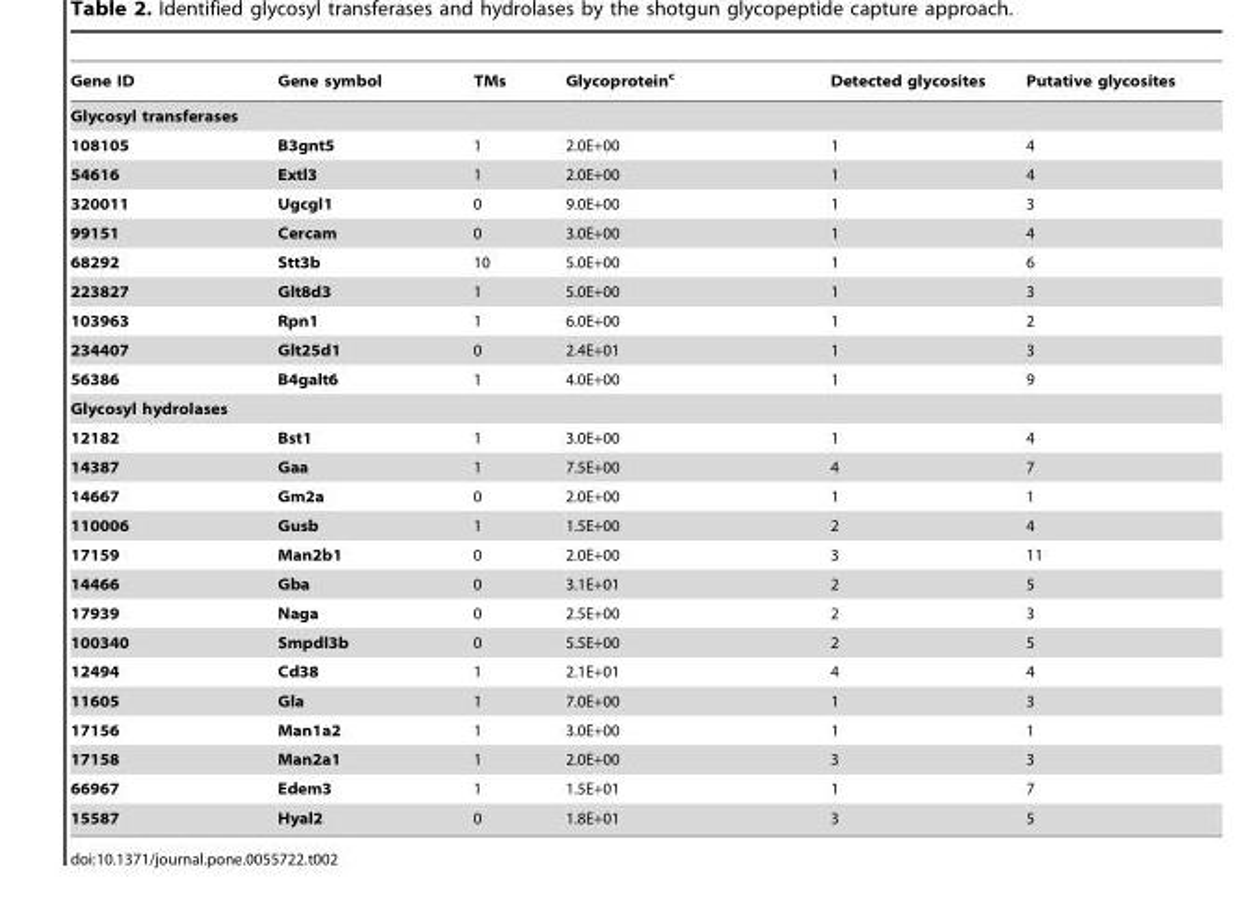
<table><thead><tr><td>Gene ID</td><td>Gene symbol</td><td>TMs</td><td>Glycoprotein<sup>c</sup></td><td>Detected glycosites</td><td>Putative glycosites</td></tr></thead><tbody><tr><td colspan="6">Glycosyl transferases</td></tr><tr><td>108105</td><td>B3gnt5</td><td>1</td><td>2.0E+00</td><td>1</td><td>4</td></tr><tr><td>54616</td><td>Extl3</td><td>1</td><td>2.0E+00</td><td>1</td><td>4</td></tr><tr><td>320011</td><td>Ugcgl1</td><td>0</td><td>9.0E+00</td><td>1</td><td>3</td></tr><tr><td>99151</td><td>Cercam</td><td>0</td><td>3.0E+00</td><td>1</td><td>4</td></tr><tr><td>68292</td><td>Stt3b</td><td>10</td><td>5.0E+00</td><td>1</td><td>6</td></tr><tr><td>223827</td><td>Glt8d3</td><td>1</td><td>5.0E+00</td><td>1</td><td>3</td></tr><tr><td>103963</td><td>Rpn1</td><td>1</td><td>6.0E+00</td><td>1</td><td>2</td></tr><tr><td>234407</td><td>Glt25d1</td><td>0</td><td>2.4E+01</td><td>1</td><td>3</td></tr><tr><td>56386</td><td>B4galt6</td><td>1</td><td>4.0E+00</td><td>1</td><td>9</td></tr><tr><td colspan="6">Glycosyl hydrolases</td></tr><tr><td>12182</td><td>Bst1</td><td>1</td><td>3.0E+00</td><td>1</td><td>4</td></tr><tr><td>14387</td><td>Gaa</td><td>1</td><td>7.5E+00</td><td>4</td><td>7</td></tr><tr><td>14667</td><td>Gm2a</td><td>0</td><td>2.0E+00</td><td>1</td><td>1</td></tr><tr><td>110006</td><td>Gusb</td><td>1</td><td>1.5E+00</td><td>2</td><td>4</td></tr><tr><td>17159</td><td>Man2b1</td><td>0</td><td>2.0E+00</td><td>3</td><td>11</td></tr><tr><td>14466</td><td>Gba</td><td>0</td><td>3.1E+01</td><td>2</td><td>5</td></tr><tr><td>17939</td><td>Naga</td><td>0</td><td>2.5E+00</td><td>2</td><td>3</td></tr><tr><td>100340</td><td>Smpdl3b</td><td>0</td><td>5.5E+00</td><td>2</td><td>5</td></tr><tr><td>12494</td><td>Cd38</td><td>1</td><td>2.1E+01</td><td>4</td><td>4</td></tr><tr><td>11605</td><td>Gla</td><td>1</td><td>7.0E+00</td><td>1</td><td>3</td></tr><tr><td>17156</td><td>Man1a2</td><td>1</td><td>3.0E+00</td><td>1</td><td>1</td></tr><tr><td>17158</td><td>Man2a1</td><td>1</td><td>2.0E+00</td><td>3</td><td>3</td></tr><tr><td>66967</td><td>Edem3</td><td>1</td><td>1.5E+01</td><td>1</td><td>7</td></tr><tr><td>15587</td><td>Hyal2</td><td>0</td><td>1.8E+01</td><td>3</td><td>5</td></tr></tbody></table>